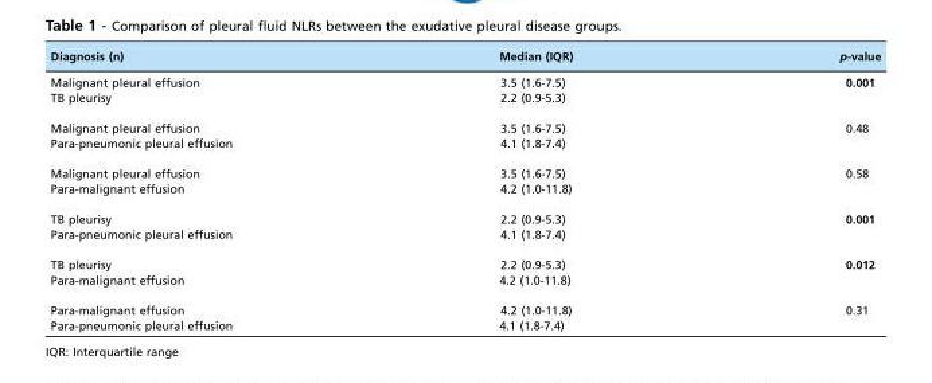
<table><thead><tr><td>Diagnosis (n)</td><td>Median (IQR)</td><td>p-value</td></tr></thead><tbody><tr><td>Malignant pleural effusion</td><td>3.5 (1.6-7.5)</td><td>0.001</td></tr><tr><td>TB pleurisy</td><td>2.2 (0.9-5.3)</td><td></td></tr><tr><td>Malignant pleural effusion</td><td>3.5 (1.6-7.5)</td><td>0.48</td></tr><tr><td>Para-pneumonic pleural effusion</td><td>4.1 (1.8-7.4)</td><td></td></tr><tr><td>Malignant pleural effusion</td><td>3.5 (1.6-7.5)</td><td>0.58</td></tr><tr><td>Para-malignant effusion</td><td>4.2 (1.0-11.8)</td><td></td></tr><tr><td>TB pleurisy</td><td>2.2 (0.9-5.3)</td><td>0.001</td></tr><tr><td>Para-pneumonic pleural effusion</td><td>4.1 (1.8-7.4)</td><td></td></tr><tr><td>TB pleurisy</td><td>2.2 (0.9-5.3)</td><td>0.012</td></tr><tr><td>Para-malignant effusion</td><td>4.2 (1.0-11.8)</td><td></td></tr><tr><td>Para-malignant effusion</td><td>4.2 (1.0-11.8)</td><td>0.31</td></tr><tr><td>Para-pneumonic pleural effusion</td><td>4.1 (1.8-7.4)</td><td></td></tr></tbody></table>